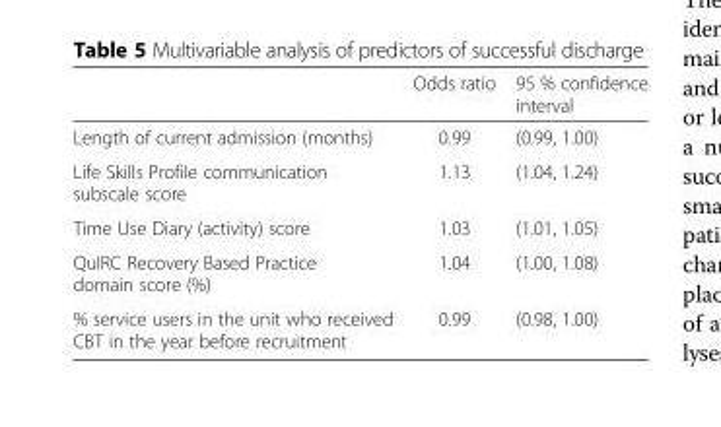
<table><thead><tr><td></td><td>Odds ratio</td><td>95 % confidence interval</td></tr></thead><tbody><tr><td>Length of current admission (months)</td><td>0.99</td><td>(0.99, 1.00)</td></tr><tr><td>Life Skills Profile communication subscale score</td><td>1.13</td><td>(1.04, 1.24)</td></tr><tr><td>Time Use Diary (activity) score</td><td>1.03</td><td>(1.01, 1.05)</td></tr><tr><td>QuIRC Recovery Based Practice domain score (%)</td><td>1.04</td><td>(1.00, 1.08)</td></tr><tr><td>% service users in the unit who received CBT in the year before recruitment</td><td>0.99</td><td>(0.98, 1.00)</td></tr></tbody></table>